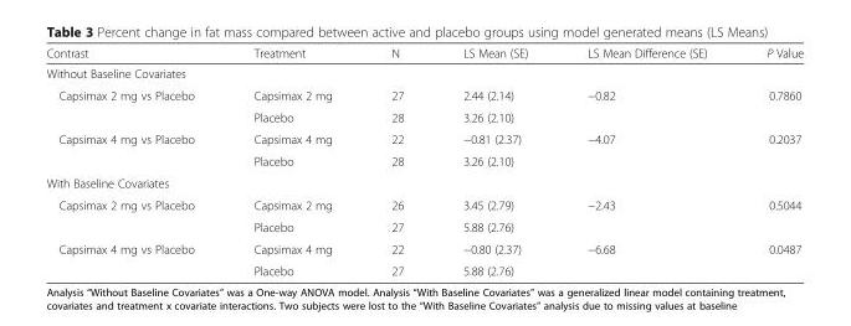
<table><thead><tr><td>Contrast</td><td>Treatment</td><td>N</td><td>LS Mean (SE)</td><td>LS Mean Difference (SE)</td><td>P Value</td></tr></thead><tbody><tr><td colspan="6">Without Baseline Covariates</td></tr><tr><td rowspan="2">Capsimax 2 mg vs Placebo</td><td>Capsimax 2 mg</td><td>27</td><td>2.44 (2.14)</td><td rowspan="2">−0.82</td><td rowspan="2">0.7860</td></tr><tr><td>Placebo</td><td>28</td><td>3.26 (2.10)</td></tr><tr><td rowspan="2">Capsimax 4 mg vs Placebo</td><td>Capsimax 4 mg</td><td>22</td><td>−0.81 (2.37)</td><td rowspan="2">−4.07</td><td rowspan="2">0.2037</td></tr><tr><td>Placebo</td><td>28</td><td>3.26 (2.10)</td></tr><tr><td colspan="6">With Baseline Covariates</td></tr><tr><td rowspan="2">Capsimax 2 mg vs Placebo</td><td>Capsimax 2 mg</td><td>26</td><td>3.45 (2.79)</td><td rowspan="2">−2.43</td><td rowspan="2">0.5044</td></tr><tr><td>Placebo</td><td>27</td><td>5.88 (2.76)</td></tr><tr><td rowspan="2">Capsimax 4 mg vs Placebo</td><td>Capsimax 4 mg</td><td>22</td><td>−0.80 (2.37)</td><td rowspan="2">−6.68</td><td rowspan="2">0.0487</td></tr><tr><td>Placebo</td><td>27</td><td>5.88 (2.76)</td></tr></tbody></table>